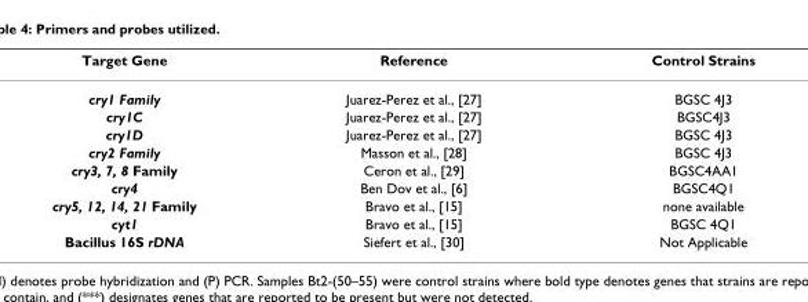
<table><thead><tr><td>Target Gene</td><td>Reference</td><td>Control Strains</td></tr></thead><tbody><tr><td>cry1 Family</td><td>Juarez-Perez et al., [27]</td><td>BGSC 4J3</td></tr><tr><td>cry1C</td><td>Juarez-Perez et al., [27]</td><td>BGSC4J3</td></tr><tr><td>cry1D</td><td>Juarez-Perez et al., [27]</td><td>BGSC 4J3</td></tr><tr><td>cry2 Family</td><td>Masson et al., [28]</td><td>BGSC 4J3</td></tr><tr><td>cry3, 7, 8 Family</td><td>Ceron et al., [29]</td><td>BGSC4AA1</td></tr><tr><td>cry4</td><td>Ben Dov et al., [6]</td><td>BGSC4Q1</td></tr><tr><td>cry5, 12, 14, 21 Family</td><td>Bravo et al., [15]</td><td>none available</td></tr><tr><td>cyt1</td><td>Bravo et al., [15]</td><td>BGSC 4Q1</td></tr><tr><td>Bacillus 16S rDNA</td><td>Siefert et al., [30]</td><td>Not Applicable</td></tr></tbody></table>